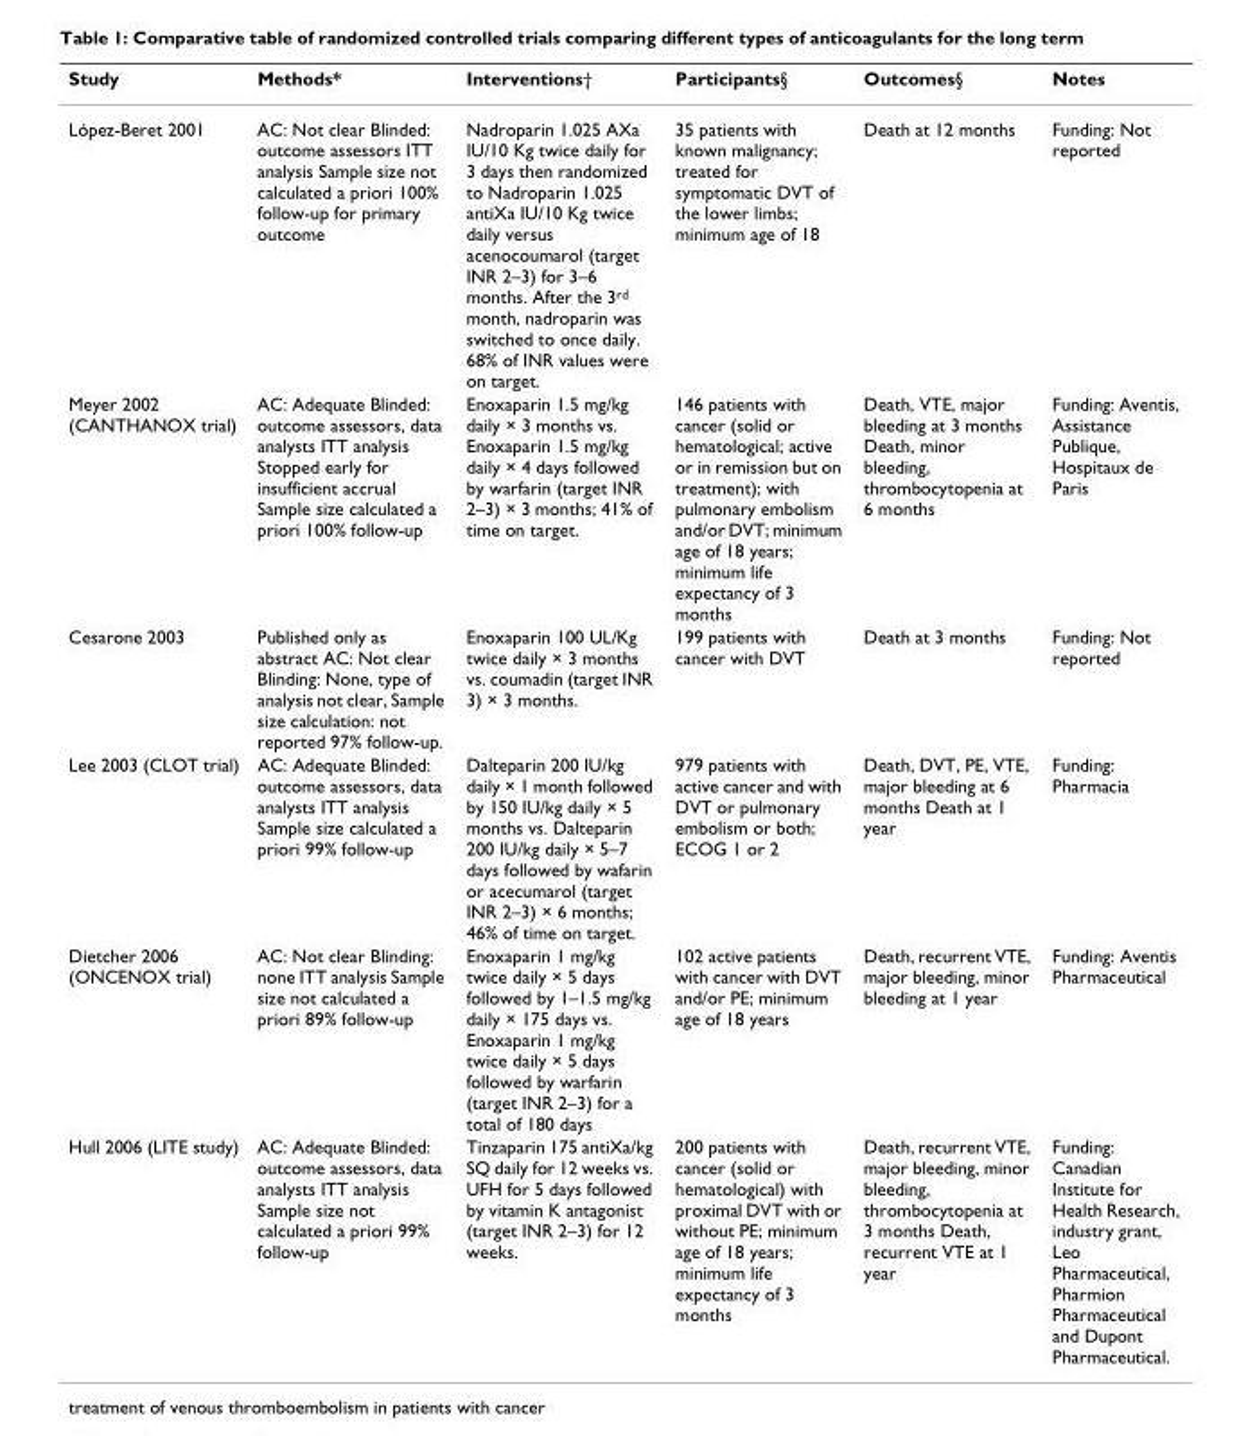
<table><thead><tr><td>Study</td><td>Methods*</td><td>Interventions†</td><td>Participants§</td><td>Outcomes§</td><td>Notes</td></tr></thead><tbody><tr><td>López-Beret 2001</td><td>AC: Not clear Blinded: outcome assessors ITT analysis Sample size not calculated a priori 100% follow-up for primary outcome</td><td>Nadroparin 1.025 AXa IU/10 Kg twice daily for 3 days then randomized to Nadroparin 1.025 antiXa IU/10 Kg twice daily versus acenocoumarol (target INR 2–3) for 3–6 months. After the 3<sup>rd</sup> month, nadroparin was switched to once daily. 68% of INR values were on target.</td><td>35 patients with known malignancy; treated for symptomatic DVT of the lower limbs; minimum age of 18</td><td>Death at 12 months</td><td>Funding: Not reported</td></tr><tr><td>Meyer 2002 (CANTHANOX trial)</td><td>AC: Adequate Blinded: outcome assessors, data analysts ITT analysis Stopped early for insufficient accrual Sample size calculated a priori 100% follow-up</td><td>Enoxaparin 1.5 mg/kg daily × 3 months vs. Enoxaparin 1.5 mg/kg daily × 4 days followed by warfarin (target INR 2–3) × 3 months; 41% of time on target.</td><td>146 patients with cancer (solid or hematological; active or in remission but on treatment); with pulmonary embolism and/or DVT; minimum age of 18 years; minimum life expectancy of 3 months</td><td>Death, VTE, major bleeding at 3 months Death, minor bleeding, thrombocytopenia at 6 months</td><td>Funding: Aventis, Assistance Publique, Hospitaux de Paris</td></tr><tr><td>Cesarone 2003</td><td>Published only as abstract AC: Not clear Blinding: None, type of analysis not clear, Sample size calculation: not reported 97% follow-up.</td><td>Enoxaparin 100 UL/Kg twice daily × 3 months vs. coumadin (target INR 3) × 3 months.</td><td>199 patients with cancer with DVT</td><td>Death at 3 months</td><td>Funding: Not reported</td></tr><tr><td>Lee 2003 (CLOT trial)</td><td>AC: Adequate Blinded: outcome assessors, data analysts ITT analysis Sample size calculated a priori 99% follow-up</td><td>Dalteparin 200 IU/kg daily × 1 month followed by 150 IU/kg daily × 5 months vs. Dalteparin 200 IU/kg daily × 5–7 days followed by wafarin or acecumarol (target INR 2–3) × 6 months; 46% of time on target.</td><td>979 patients with active cancer and with DVT or pulmonary embolism or both; ECOG 1 or 2</td><td>Death, DVT, PE, VTE, major bleeding at 6 months Death at 1 year</td><td>Funding: Pharmacia</td></tr><tr><td>Dietcher 2006 (ONCENOX trial)</td><td>AC: Not clear Blinding: none ITT analysis Sample size not calculated a priori 89% follow-up</td><td>Enoxaparin 1 mg/kg twice daily × 5 days followed by 1–1.5 mg/kg daily × 175 days vs. Enoxaparin 1 mg/kg twice daily × 5 days followed by warfarin (target INR 2–3) for a total of 180 days</td><td>102 active patients with cancer with DVT and/or PE; minimum age of 18 years</td><td>Death, recurrent VTE, major bleeding, minor bleeding at 1 year</td><td>Funding: Aventis Pharmaceutical</td></tr><tr><td>Hull 2006 (LITE study)</td><td>AC: Adequate Blinded: outcome assessors, data analysts ITT analysis Sample size not calculated a priori 99% follow-up</td><td>Tinzaparin 175 antiXa/kg SQ daily for 12 weeks vs. UFH for 5 days followed by vitamin K antagonist (target INR 2–3) for 12 weeks.</td><td>200 patients with cancer (solid or hematological) with proximal DVT with or without PE; minimum age of 18 years; minimum life expectancy of 3 months</td><td>Death, recurrent VTE, major bleeding, minor bleeding, thrombocytopenia at 3 months Death, recurrent VTE at 1 year</td><td>Funding: Canadian Institute for Health Research, industry grant, Leo Pharmaceutical, Pharmion Pharmaceutical and Dupont Pharmaceutical.</td></tr></tbody></table>